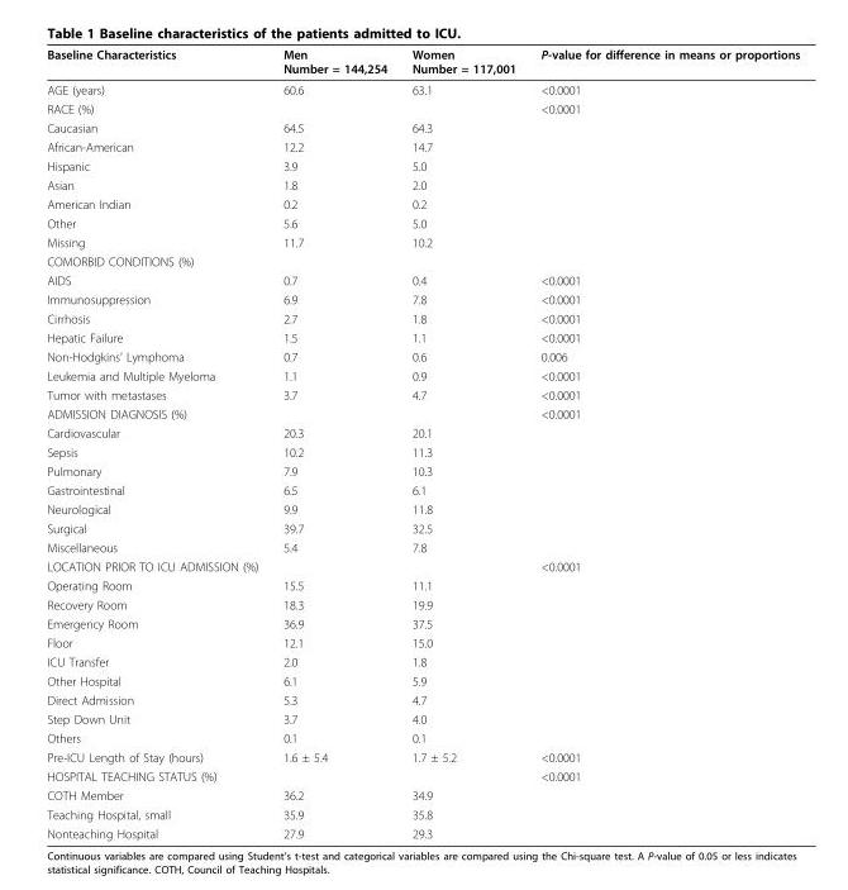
<table><thead><tr><td>Baseline Characteristics</td><td>Men Number = 144,254</td><td>Women Number = 117,001</td><td>P-value for difference in means or proportions</td></tr></thead><tbody><tr><td>AGE (years)</td><td>60.6</td><td>63.1</td><td>&lt;0.0001</td></tr><tr><td>RACE (%)</td><td></td><td></td><td>&lt;0.0001</td></tr><tr><td>Caucasian</td><td>64.5</td><td>64.3</td><td></td></tr><tr><td>African-American</td><td>12.2</td><td>14.7</td><td></td></tr><tr><td>Hispanic</td><td>3.9</td><td>5.0</td><td></td></tr><tr><td>Asian</td><td>1.8</td><td>2.0</td><td></td></tr><tr><td>American Indian</td><td>0.2</td><td>0.2</td><td></td></tr><tr><td>Other</td><td>5.6</td><td>5.0</td><td></td></tr><tr><td>Missing</td><td>11.7</td><td>10.2</td><td></td></tr><tr><td colspan="4">COMORBID CONDITIONS (%)</td></tr><tr><td>AIDS</td><td>0.7</td><td>0.4</td><td>&lt;0.0001</td></tr><tr><td>Immunosuppression</td><td>6.9</td><td>7.8</td><td>&lt;0.0001</td></tr><tr><td>Cirrhosis</td><td>2.7</td><td>1.8</td><td>&lt;0.0001</td></tr><tr><td>Hepatic Failure</td><td>1.5</td><td>1.1</td><td>&lt;0.0001</td></tr><tr><td>Non-Hodgkins’ Lymphoma</td><td>0.7</td><td>0.6</td><td>0.006</td></tr><tr><td>Leukemia and Multiple Myeloma</td><td>1.1</td><td>0.9</td><td>&lt;0.0001</td></tr><tr><td>Tumor with metastases</td><td>3.7</td><td>4.7</td><td>&lt;0.0001</td></tr><tr><td>ADMISSION DIAGNOSIS (%)</td><td></td><td></td><td>&lt;0.0001</td></tr><tr><td>Cardiovascular</td><td>20.3</td><td>20.1</td><td></td></tr><tr><td>Sepsis</td><td>10.2</td><td>11.3</td><td></td></tr><tr><td>Pulmonary</td><td>7.9</td><td>10.3</td><td></td></tr><tr><td>Gastrointestinal</td><td>6.5</td><td>6.1</td><td></td></tr><tr><td>Neurological</td><td>9.9</td><td>11.8</td><td></td></tr><tr><td>Surgical</td><td>39.7</td><td>32.5</td><td></td></tr><tr><td>Miscellaneous</td><td>5.4</td><td>7.8</td><td></td></tr><tr><td>LOCATION PRIOR TO ICU ADMISSION (%)</td><td></td><td></td><td>&lt;0.0001</td></tr><tr><td>Operating Room</td><td>15.5</td><td>11.1</td><td></td></tr><tr><td>Recovery Room</td><td>18.3</td><td>19.9</td><td></td></tr><tr><td>Emergency Room</td><td>36.9</td><td>37.5</td><td></td></tr><tr><td>Floor</td><td>12.1</td><td>15.0</td><td></td></tr><tr><td>ICU Transfer</td><td>2.0</td><td>1.8</td><td></td></tr><tr><td>Other Hospital</td><td>6.1</td><td>5.9</td><td></td></tr><tr><td>Direct Admission</td><td>5.3</td><td>4.7</td><td></td></tr><tr><td>Step Down Unit</td><td>3.7</td><td>4.0</td><td></td></tr><tr><td>Others</td><td>0.1</td><td>0.1</td><td></td></tr><tr><td>Pre-ICU Length of Stay (hours)</td><td>1.6 ± 5.4</td><td>1.7 ± 5.2</td><td>&lt;0.0001</td></tr><tr><td>HOSPITAL TEACHING STATUS (%)</td><td></td><td></td><td>&lt;0.0001</td></tr><tr><td>COTH Member</td><td>36.2</td><td>34.9</td><td></td></tr><tr><td>Teaching Hospital, small</td><td>35.9</td><td>35.8</td><td></td></tr><tr><td>Nonteaching Hospital</td><td>27.9</td><td>29.3</td><td></td></tr></tbody></table>